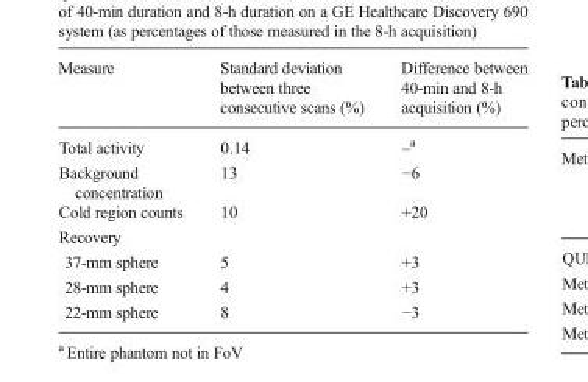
<table><thead><tr><td>Measure</td><td>Standard deviation between three consecutive scans (%)</td><td>Difference between 40-min and 8-h acquisition (%)</td></tr></thead><tbody><tr><td>Total activity</td><td>0.14</td><td>–<sup>a</sup></td></tr><tr><td>Background concentration</td><td>13</td><td>−6</td></tr><tr><td>Cold region counts</td><td>10</td><td>+20</td></tr><tr><td colspan="3">Recovery</td></tr><tr><td>37-mm sphere</td><td>5</td><td>+3</td></tr><tr><td>28-mm sphere</td><td>4</td><td>+3</td></tr><tr><td>22-mm sphere</td><td>8</td><td>−3</td></tr></tbody></table>